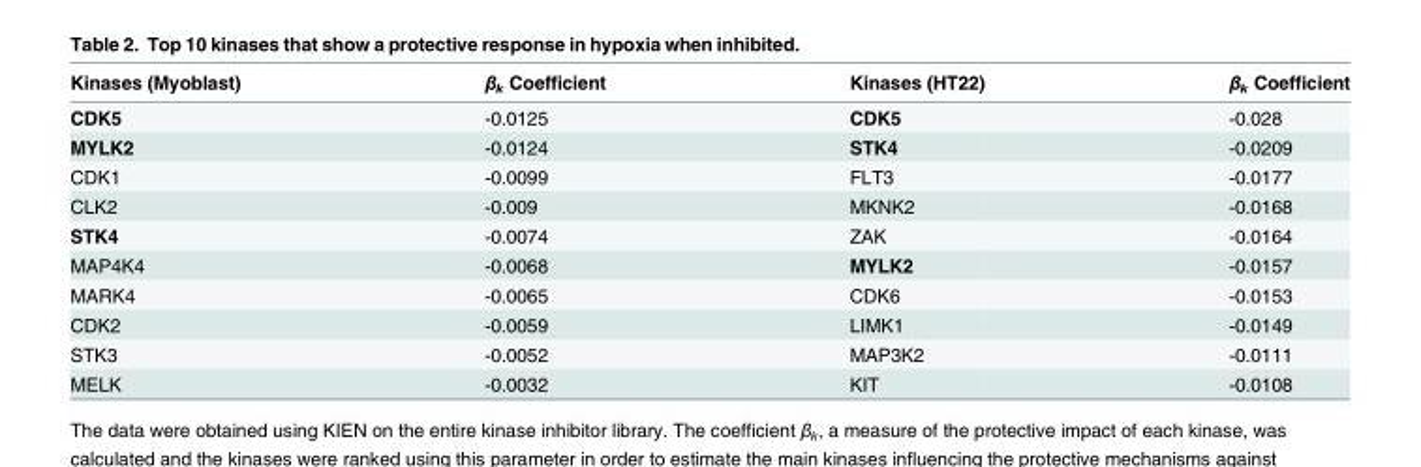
<table><thead><tr><td>Kinases (Myoblast)</td><td>β<sub>k</sub> Coefficient</td><td>Kinases (HT22)</td><td>β<sub>k</sub> Coefficient</td></tr></thead><tbody><tr><td>CDK5</td><td>-0.0125</td><td>CDK5</td><td>-0.028</td></tr><tr><td>MYLK2</td><td>-0.0124</td><td>STK4</td><td>-0.0209</td></tr><tr><td>CDK1</td><td>-0.0099</td><td>FLT3</td><td>-0.0177</td></tr><tr><td>CLK2</td><td>-0.009</td><td>MKNK2</td><td>-0.0168</td></tr><tr><td>STK4</td><td>-0.0074</td><td>ZAK</td><td>-0.0164</td></tr><tr><td>MAP4K4</td><td>-0.0068</td><td>MYLK2</td><td>-0.0157</td></tr><tr><td>MARK4</td><td>-0.0065</td><td>CDK6</td><td>-0.0153</td></tr><tr><td>CDK2</td><td>-0.0059</td><td>LIMK1</td><td>-0.0149</td></tr><tr><td>STK3</td><td>-0.0052</td><td>MAP3K2</td><td>-0.0111</td></tr><tr><td>MELK</td><td>-0.0032</td><td>KIT</td><td>-0.0108</td></tr></tbody></table>